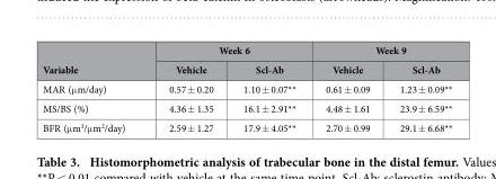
<table><thead><tr><td rowspan="2">Variable</td><td colspan="2">Week 6</td><td colspan="2">Week 9</td></tr><tr><td>Vehicle</td><td>Scl-Ab</td><td>Vehicle</td><td>Scl-Ab</td></tr></thead><tbody><tr><td>MAR (μ m/day)</td><td>0.57 ± 0.20</td><td>1.10 ± 0.07**</td><td>0.61 ± 0.09</td><td>1.23 ± 0.09**</td></tr><tr><td>MS/BS (%)</td><td>4.36 ± 1.35</td><td>16.1 ± 2.91**</td><td>4.48 ± 1.61</td><td>23.9 ± 6.59**</td></tr><tr><td>BFR (μ m<sup>3</sup>/μ m<sup>2</sup>/day)</td><td>2.59 ± 1.27</td><td>17.9 ± 4.05**</td><td>2.70 ± 0.99</td><td>29.1 ± 6.68**</td></tr></tbody></table>